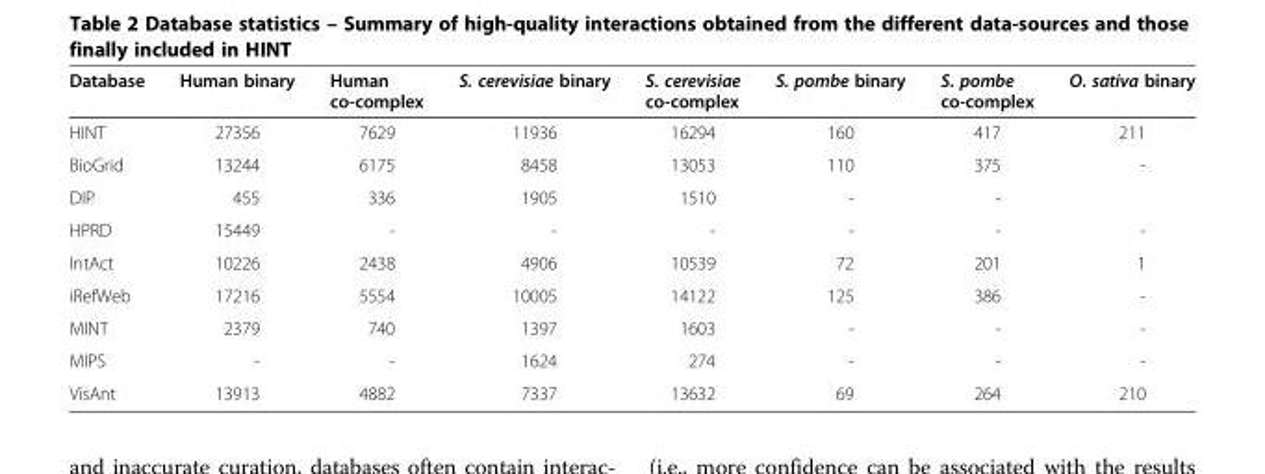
<table><thead><tr><td>Database</td><td>Human binary</td><td>Human co-complex</td><td>S. cerevisiae binary</td><td>S. cerevisiae co-complex</td><td>S. pombe binary</td><td>S. pombe co-complex</td><td>O. sativa binary</td></tr></thead><tbody><tr><td>HINT</td><td>27356</td><td>7629</td><td>11936</td><td>16294</td><td>160</td><td>417</td><td>211</td></tr><tr><td>BioGrid</td><td>13244</td><td>6175</td><td>8458</td><td>13053</td><td>110</td><td>375</td><td>-</td></tr><tr><td>DIP</td><td>455</td><td>336</td><td>1905</td><td>1510</td><td>-</td><td>-</td><td></td></tr><tr><td>HPRD</td><td>15449</td><td>-</td><td>-</td><td>-</td><td>-</td><td>-</td><td>-</td></tr><tr><td>IntAct</td><td>10226</td><td>2438</td><td>4906</td><td>10539</td><td>72</td><td>201</td><td>1</td></tr><tr><td>iRefWeb</td><td>17216</td><td>5554</td><td>10005</td><td>14122</td><td>125</td><td>386</td><td>-</td></tr><tr><td>MINT</td><td>2379</td><td>740</td><td>1397</td><td>1603</td><td>-</td><td>-</td><td>-</td></tr><tr><td>MIPS</td><td>-</td><td>-</td><td>1624</td><td>274</td><td>-</td><td>-</td><td>-</td></tr><tr><td>VisAnt</td><td>13913</td><td>4882</td><td>7337</td><td>13632</td><td>69</td><td>264</td><td>210</td></tr></tbody></table>